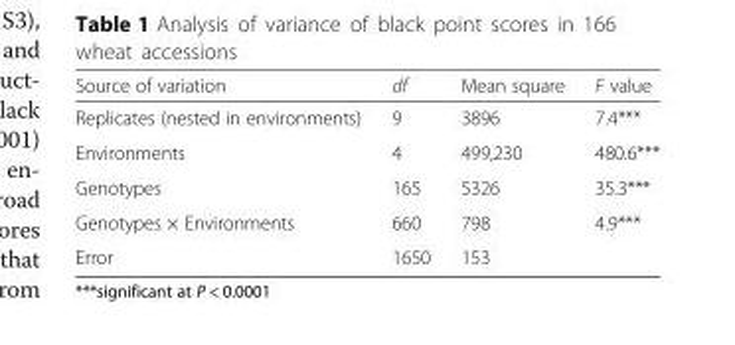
<table><thead><tr><td>Source of variation</td><td>df</td><td>Mean square</td><td>F value</td></tr></thead><tbody><tr><td>Replicates (nested in environments)</td><td>9</td><td>3896</td><td>7.4***</td></tr><tr><td>Environments</td><td>4</td><td>499,230</td><td>480.6***</td></tr><tr><td>Genotypes</td><td>165</td><td>5326</td><td>35.3***</td></tr><tr><td>Genotypes × Environments</td><td>660</td><td>798</td><td>4.9***</td></tr><tr><td>Error</td><td>1650</td><td>153</td><td></td></tr></tbody></table>